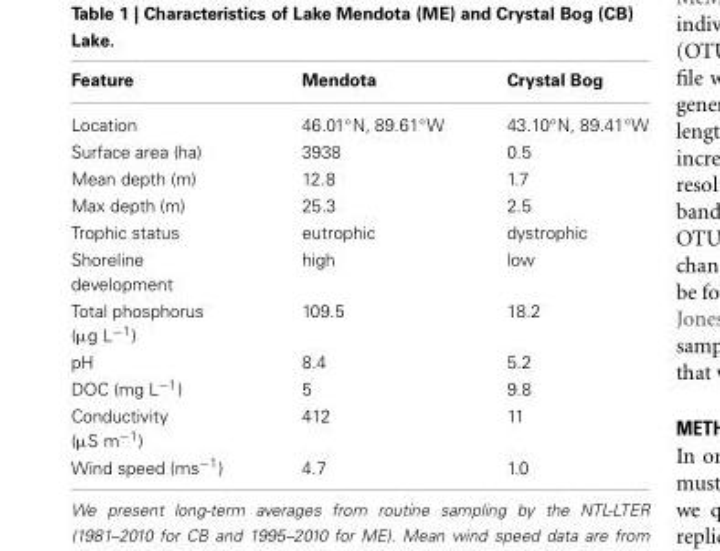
<table><thead><tr><td>Feature</td><td>Mendota</td><td>Crystal Bog</td></tr></thead><tbody><tr><td>Location</td><td>46.01◦N, 89.61◦W</td><td>43.10◦N, 89.41◦W</td></tr><tr><td>Surface area (ha)</td><td>3938</td><td>0.5</td></tr><tr><td>Mean depth (m)</td><td>12.8</td><td>1.7</td></tr><tr><td>Max depth (m)</td><td>25.3</td><td>2.5</td></tr><tr><td>Trophic status</td><td>eutrophic</td><td>dystrophic</td></tr><tr><td>Shoreline development</td><td>high</td><td>low</td></tr><tr><td>Total phosphorus (µg L<sup>−1</sup>)</td><td>109.5</td><td>18.2</td></tr><tr><td>pH</td><td>8.4</td><td>5.2</td></tr><tr><td>DOC (mg L<sup>−1</sup>)</td><td>5</td><td>9.8</td></tr><tr><td>Conductivity (µS m<sup>−1</sup>)</td><td>412</td><td>11</td></tr><tr><td>Wind speed (ms<sup>−1</sup>)</td><td>4.7</td><td>1.0</td></tr></tbody></table>